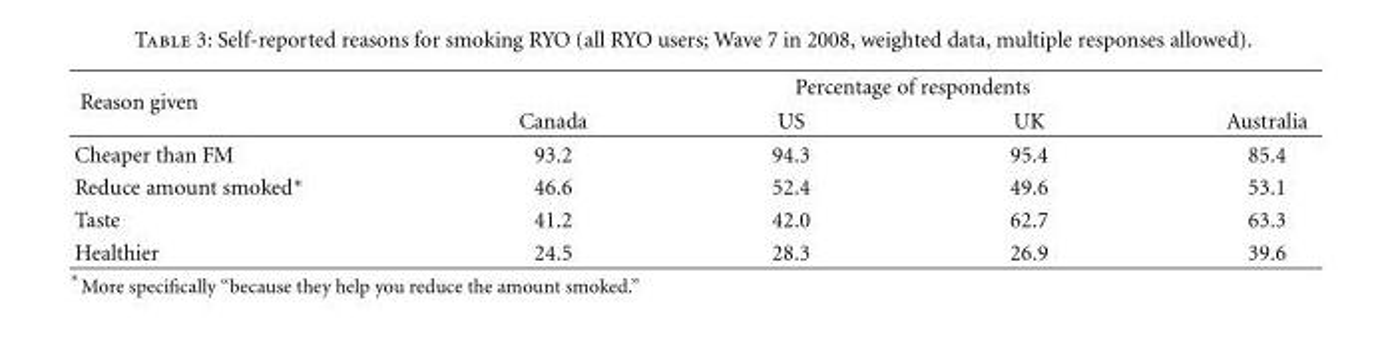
<table><thead><tr><td rowspan="2">Reason given</td><td colspan="4">Percentage of respondents</td></tr><tr><td>Canada</td><td>US</td><td>UK</td><td>Australia</td></tr></thead><tbody><tr><td>Cheaper than FM</td><td>93.2</td><td>94.3</td><td>95.4</td><td>85.4</td></tr><tr><td>Reduce amount smoked∗</td><td>46.6</td><td>52.4</td><td>49.6</td><td>53.1</td></tr><tr><td>Taste</td><td>41.2</td><td>42.0</td><td>62.7</td><td>63.3</td></tr><tr><td>Healthier</td><td>24.5</td><td>28.3</td><td>26.9</td><td>39.6</td></tr></tbody></table>